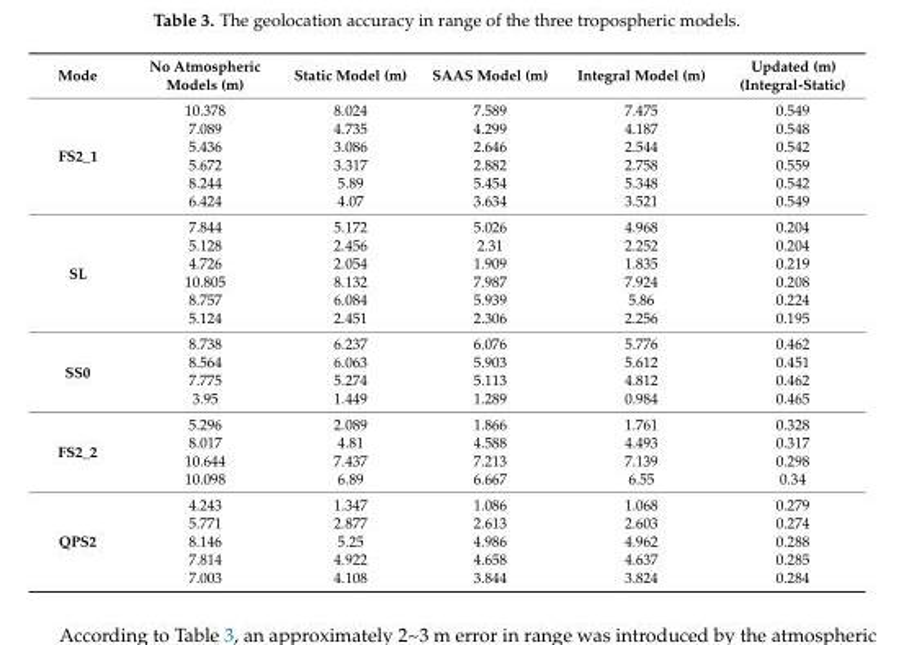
<table><thead><tr><td>Mode</td><td>No Atmospheric Models (m)</td><td>Static Model (m)</td><td>SAAS Model (m)</td><td>Integral Model (m)</td><td>Updated (m) (Integral-Static)</td></tr></thead><tbody><tr><td rowspan="6">FS2_1</td><td>10.378</td><td>8.024</td><td>7.589</td><td>7.475</td><td>0.549</td></tr><tr><td>7.089</td><td>4.735</td><td>4.299</td><td>4.187</td><td>0.548</td></tr><tr><td>5.436</td><td>3.086</td><td>2.646</td><td>2.544</td><td>0.542</td></tr><tr><td>5.672</td><td>3.317</td><td>2.882</td><td>2.758</td><td>0.559</td></tr><tr><td>8.244</td><td>5.89</td><td>5.454</td><td>5.348</td><td>0.542</td></tr><tr><td>6.424</td><td>4.07</td><td>3.634</td><td>3.521</td><td>0.549</td></tr><tr><td rowspan="6">SL</td><td>7.844</td><td>5.172</td><td>5.026</td><td>4.968</td><td>0.204</td></tr><tr><td>5.128</td><td>2.456</td><td>2.31</td><td>2.252</td><td>0.204</td></tr><tr><td>4.726</td><td>2.054</td><td>1.909</td><td>1.835</td><td>0.219</td></tr><tr><td>10.805</td><td>8.132</td><td>7.987</td><td>7.924</td><td>0.208</td></tr><tr><td>8.757</td><td>6.084</td><td>5.939</td><td>5.86</td><td>0.224</td></tr><tr><td>5.124</td><td>2.451</td><td>2.306</td><td>2.256</td><td>0.195</td></tr><tr><td rowspan="4">SS0</td><td>8.738</td><td>6.237</td><td>6.076</td><td>5.776</td><td>0.462</td></tr><tr><td>8.564</td><td>6.063</td><td>5.903</td><td>5.612</td><td>0.451</td></tr><tr><td>7.775</td><td>5.274</td><td>5.113</td><td>4.812</td><td>0.462</td></tr><tr><td>3.95</td><td>1.449</td><td>1.289</td><td>0.984</td><td>0.465</td></tr><tr><td rowspan="4">FS2_2</td><td>5.296</td><td>2.089</td><td>1.866</td><td>1.761</td><td>0.328</td></tr><tr><td>8.017</td><td>4.81</td><td>4.588</td><td>4.493</td><td>0.317</td></tr><tr><td>10.644</td><td>7.437</td><td>7.213</td><td>7.139</td><td>0.298</td></tr><tr><td>10.098</td><td>6.89</td><td>6.667</td><td>6.55</td><td>0.34</td></tr><tr><td rowspan="5">QPS2</td><td>4.243</td><td>1.347</td><td>1.086</td><td>1.068</td><td>0.279</td></tr><tr><td>5.771</td><td>2.877</td><td>2.613</td><td>2.603</td><td>0.274</td></tr><tr><td>8.146</td><td>5.25</td><td>4.986</td><td>4.962</td><td>0.288</td></tr><tr><td>7.814</td><td>4.922</td><td>4.658</td><td>4.637</td><td>0.285</td></tr><tr><td>7.003</td><td>4.108</td><td>3.844</td><td>3.824</td><td>0.284</td></tr></tbody></table>